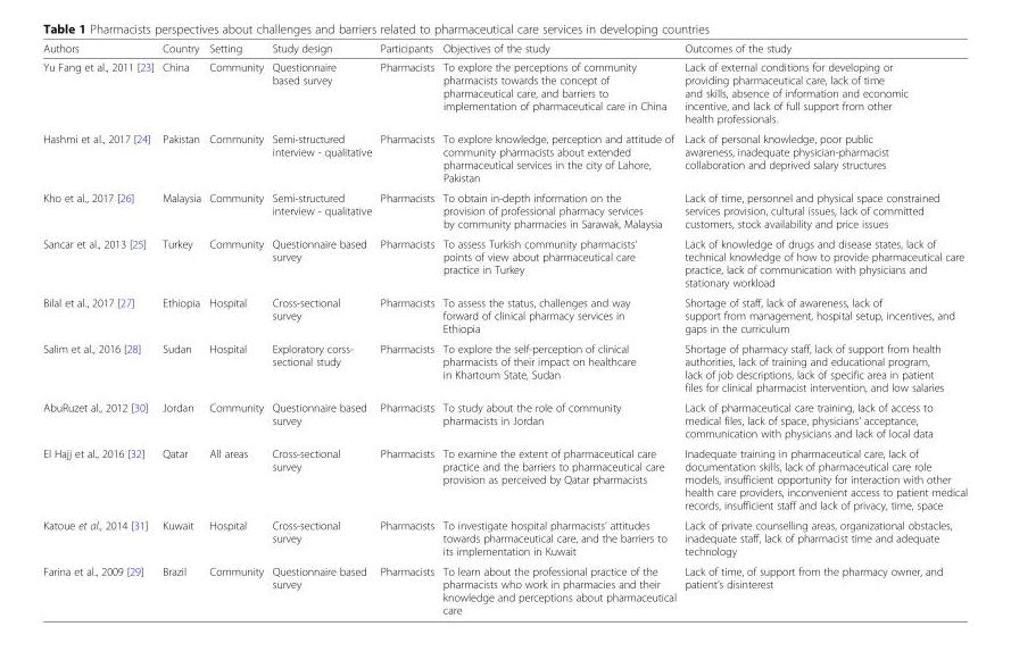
<table><thead><tr><td>Authors</td><td>Country</td><td>Setting</td><td>Study design</td><td>Participants</td><td>Objectives of the study</td><td>Outcomes of the study</td></tr></thead><tbody><tr><td>Yu Fang et al., 2011 [23]</td><td>China</td><td>Community</td><td>Questionnaire based survey</td><td>Pharmacists</td><td>To explore the perceptions of community pharmacists towards the concept of pharmaceutical care, and barriers to implementation of pharmaceutical care in China</td><td>Lack of external conditions for developing or providing pharmaceutical care, lack of time and skills, absence of information and economic incentive, and lack of full support from other health professionals.</td></tr><tr><td>Hashmi et al., 2017 [24]</td><td>Pakistan</td><td>Community</td><td>Semi-structured interview - qualitative</td><td>Pharmacists</td><td>To explore knowledge, perception and attitude of community pharmacists about extended pharmaceutical services in the city of Lahore, Pakistan</td><td>Lack of personal knowledge, poor public awareness, inadequate physician-pharmacist collaboration and deprived salary structures</td></tr><tr><td>Kho et al., 2017 [26]</td><td>Malaysia</td><td>Community</td><td>Semi-structured interview - qualitative</td><td>Pharmacists</td><td>To obtain in-depth information on the provision of professional pharmacy services by community pharmacies in Sarawak, Malaysia</td><td>Lack of time, personnel and physical space constrained services provision, cultural issues, lack of committed customers, stock availability and price issues</td></tr><tr><td>Sancar et al., 2013 [25]</td><td>Turkey</td><td>Community</td><td>Questionnaire based survey</td><td>Pharmacists</td><td>To assess Turkish community pharmacists’ points of view about pharmaceutical care practice in Turkey</td><td>Lack of knowledge of drugs and disease states, lack of technical knowledge of how to provide pharmaceutical care practice, lack of communication with physicians and stationary workload</td></tr><tr><td>Bilal et al., 2017 [27]</td><td>Ethiopia</td><td>Hospital</td><td>Cross-sectional survey</td><td>Pharmacists</td><td>To assess the status, challenges and way forward of clinical pharmacy services in Ethiopia</td><td>Shortage of staff, lack of awareness, lack of support from management, hospital setup, incentives, and gaps in the curriculum</td></tr><tr><td>Salim et al., 2016 [28]</td><td>Sudan</td><td>Hospital</td><td>Exploratory corss- sectional study</td><td>Pharmacists</td><td>To explore the self-perception of clinical pharmacists of their impact on healthcare in Khartoum State, Sudan</td><td>Shortage of pharmacy staff, lack of support from health authorities, lack of training and educational program, lack of job descriptions, lack of specific area in patient files for clinical pharmacist intervention, and low salaries</td></tr><tr><td>AbuRuzet al., 2012 [30]</td><td>Jordan</td><td>Community</td><td>Questionnaire based survey</td><td>Pharmacists</td><td>To study about the role of community pharmacists in Jordan</td><td>Lack of pharmaceutical care training, lack of access to medical files, lack of space, physicians’ acceptance, communication with physicians and lack of local data</td></tr><tr><td>El Hajj et al., 2016 [32]</td><td>Qatar</td><td>All areas</td><td>Cross-sectional survey</td><td>Pharmacists</td><td>To examine the extent of pharmaceutical care practice and the barriers to pharmaceutical care provision as perceived by Qatar pharmacists</td><td>Inadequate training in pharmaceutical care, lack of documentation skills, lack of pharmaceutical care role models, insufficient opportunity for interaction with other health care providers, inconvenient access to patient medical records, insufficient staff and lack of privacy, time, space</td></tr><tr><td>Katoue et al., 2014 [31]</td><td>Kuwait</td><td>Hospital</td><td>Cross-sectional survey</td><td>Pharmacists</td><td>To investigate hospital pharmacists’ attitudes towards pharmaceutical care, and the barriers to its implementation in Kuwait</td><td>Lack of private counselling areas, organizational obstacles, inadequate staff, lack of pharmacist time and adequate technology</td></tr><tr><td>Farina et al., 2009 [29]</td><td>Brazil</td><td>Community</td><td>Questionnaire based survey</td><td>Pharmacists</td><td>To learn about the professional practice of the pharmacists who work in pharmacies and their knowledge and perceptions about pharmaceutical care</td><td>Lack of time, of support from the pharmacy owner, and patient’s disinterest</td></tr></tbody></table>